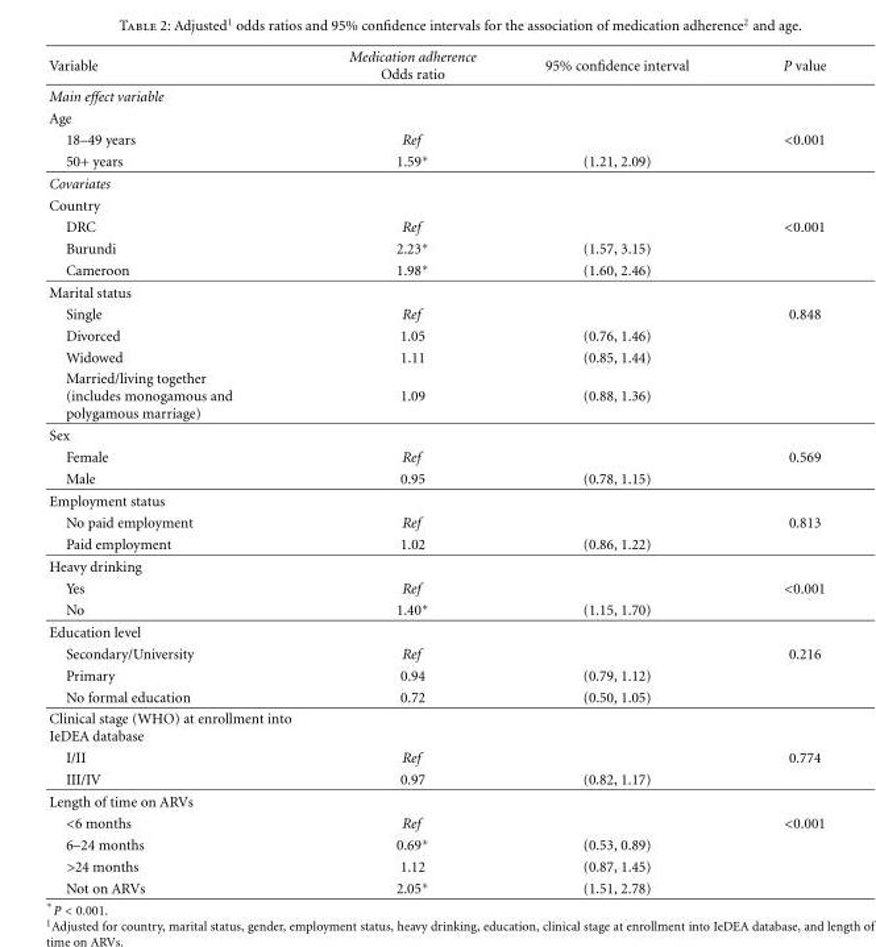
<table><thead><tr><td>Variable</td><td>Medication adherence Odds ratio</td><td>95% confidence interval</td><td>P value</td></tr></thead><tbody><tr><td colspan="4">Main effect variable</td></tr><tr><td colspan="4">Age</td></tr><tr><td>18–49 years</td><td>Ref</td><td></td><td>&lt;0.001</td></tr><tr><td>50+ years</td><td>1.59∗</td><td>(1.21, 2.09)</td><td></td></tr><tr><td colspan="4">Covariates</td></tr><tr><td colspan="4">Country</td></tr><tr><td>DRC</td><td>Ref</td><td></td><td>&lt;0.001</td></tr><tr><td>Burundi</td><td>2.23∗</td><td>(1.57, 3.15)</td><td></td></tr><tr><td>Cameroon</td><td>1.98∗</td><td>(1.60, 2.46)</td><td></td></tr><tr><td colspan="4">Marital status</td></tr><tr><td>Single</td><td>Ref</td><td></td><td>0.848</td></tr><tr><td>Divorced</td><td>1.05</td><td>(0.76, 1.46)</td><td></td></tr><tr><td>Widowed</td><td>1.11</td><td>(0.85, 1.44)</td><td></td></tr><tr><td>Married/living together (includes monogamous and polygamous marriage)</td><td>1.09</td><td>(0.88, 1.36)</td><td></td></tr><tr><td colspan="4">Sex</td></tr><tr><td>Female</td><td>Ref</td><td></td><td>0.569</td></tr><tr><td>Male</td><td>0.95</td><td>(0.78, 1.15)</td><td></td></tr><tr><td colspan="4">Employment status</td></tr><tr><td>No paid employment</td><td>Ref</td><td></td><td>0.813</td></tr><tr><td>Paid employment</td><td>1.02</td><td>(0.86, 1.22)</td><td></td></tr><tr><td colspan="4">Heavy drinking</td></tr><tr><td>Yes</td><td>Ref</td><td></td><td>&lt;0.001</td></tr><tr><td>No</td><td>1.40∗</td><td>(1.15, 1.70)</td><td></td></tr><tr><td colspan="4">Education level</td></tr><tr><td>Secondary/University</td><td>Ref</td><td></td><td>0.216</td></tr><tr><td>Primary</td><td>0.94</td><td>(0.79, 1.12)</td><td></td></tr><tr><td>No formal education</td><td>0.72</td><td>(0.50, 1.05)</td><td></td></tr><tr><td colspan="4">Clinical stage (WHO) at enrollment into IeDEA database</td></tr><tr><td>I/II</td><td>Ref</td><td></td><td>0.774</td></tr><tr><td>III/IV</td><td>0.97</td><td>(0.82, 1.17)</td><td></td></tr><tr><td colspan="4">Length of time on ARVs</td></tr><tr><td>&lt;6 months</td><td>Ref</td><td></td><td>&lt;0.001</td></tr><tr><td>6–24 months</td><td>0.69∗</td><td>(0.53, 0.89)</td><td></td></tr><tr><td>&gt;24 months</td><td>1.12</td><td>(0.87, 1.45)</td><td></td></tr><tr><td>Not on ARVs</td><td>2.05∗</td><td>(1.51, 2.78)</td><td></td></tr></tbody></table>